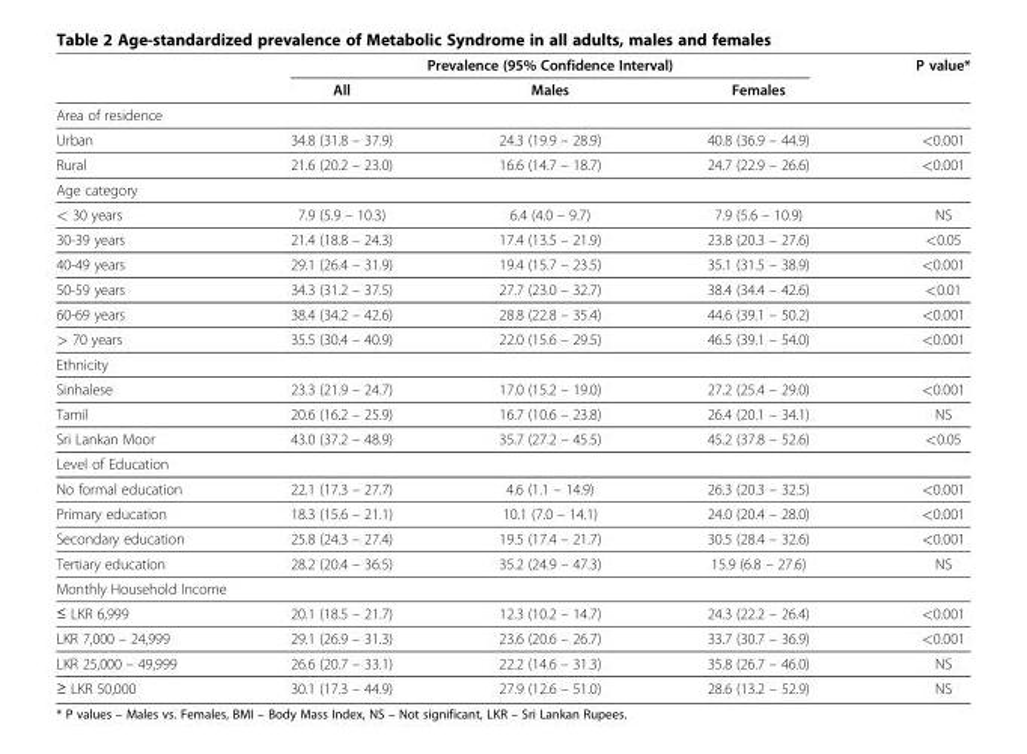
<table><thead><tr><td rowspan="2"></td><td colspan="3">Prevalence (95% Confidence Interval)</td><td rowspan="2">P value*</td></tr><tr><td>All</td><td>Males</td><td>Females</td></tr></thead><tbody><tr><td colspan="5">Area of residence</td></tr><tr><td>Urban</td><td>34.8 (31.8 – 37.9)</td><td>24.3 (19.9 – 28.9)</td><td>40.8 (36.9 – 44.9)</td><td>&lt;0.001</td></tr><tr><td>Rural</td><td>21.6 (20.2 – 23.0)</td><td>16.6 (14.7 – 18.7)</td><td>24.7 (22.9 – 26.6)</td><td>&lt;0.001</td></tr><tr><td colspan="5">Age category</td></tr><tr><td>&lt; 30 years</td><td>7.9 (5.9 – 10.3)</td><td>6.4 (4.0 – 9.7)</td><td>7.9 (5.6 – 10.9)</td><td>NS</td></tr><tr><td>30-39 years</td><td>21.4 (18.8 – 24.3)</td><td>17.4 (13.5 – 21.9)</td><td>23.8 (20.3 – 27.6)</td><td>&lt;0.05</td></tr><tr><td>40-49 years</td><td>29.1 (26.4 – 31.9)</td><td>19.4 (15.7 – 23.5)</td><td>35.1 (31.5 – 38.9)</td><td>&lt;0.001</td></tr><tr><td>50-59 years</td><td>34.3 (31.2 – 37.5)</td><td>27.7 (23.0 – 32.7)</td><td>38.4 (34.4 – 42.6)</td><td>&lt;0.01</td></tr><tr><td>60-69 years</td><td>38.4 (34.2 – 42.6)</td><td>28.8 (22.8 – 35.4)</td><td>44.6 (39.1 – 50.2)</td><td>&lt;0.001</td></tr><tr><td>&gt; 70 years</td><td>35.5 (30.4 – 40.9)</td><td>22.0 (15.6 – 29.5)</td><td>46.5 (39.1 – 54.0)</td><td>&lt;0.001</td></tr><tr><td colspan="5">Ethnicity</td></tr><tr><td>Sinhalese</td><td>23.3 (21.9 – 24.7)</td><td>17.0 (15.2 – 19.0)</td><td>27.2 (25.4 – 29.0)</td><td>&lt;0.001</td></tr><tr><td>Tamil</td><td>20.6 (16.2 – 25.9)</td><td>16.7 (10.6 – 23.8)</td><td>26.4 (20.1 – 34.1)</td><td>NS</td></tr><tr><td>Sri Lankan Moor</td><td>43.0 (37.2 – 48.9)</td><td>35.7 (27.2 – 45.5)</td><td>45.2 (37.8 – 52.6)</td><td>&lt;0.05</td></tr><tr><td colspan="5">Level of Education</td></tr><tr><td>No formal education</td><td>22.1 (17.3 – 27.7)</td><td>4.6 (1.1 – 14.9)</td><td>26.3 (20.3 – 32.5)</td><td>&lt;0.001</td></tr><tr><td>Primary education</td><td>18.3 (15.6 – 21.1)</td><td>10.1 (7.0 – 14.1)</td><td>24.0 (20.4 – 28.0)</td><td>&lt;0.001</td></tr><tr><td>Secondary education</td><td>25.8 (24.3 – 27.4)</td><td>19.5 (17.4 – 21.7)</td><td>30.5 (28.4 – 32.6)</td><td>&lt;0.001</td></tr><tr><td>Tertiary education</td><td>28.2 (20.4 – 36.5)</td><td>35.2 (24.9 – 47.3)</td><td>15.9 (6.8 – 27.6)</td><td>NS</td></tr><tr><td colspan="5">Monthly Household Income</td></tr><tr><td>≤ LKR 6,999</td><td>20.1 (18.5 – 21.7)</td><td>12.3 (10.2 – 14.7)</td><td>24.3 (22.2 – 26.4)</td><td>&lt;0.001</td></tr><tr><td>LKR 7,000 – 24,999</td><td>29.1 (26.9 – 31.3)</td><td>23.6 (20.6 – 26.7)</td><td>33.7 (30.7 – 36.9)</td><td>&lt;0.001</td></tr><tr><td>LKR 25,000 – 49,999</td><td>26.6 (20.7 – 33.1)</td><td>22.2 (14.6 – 31.3)</td><td>35.8 (26.7 – 46.0)</td><td>NS</td></tr><tr><td>≥ LKR 50,000</td><td>30.1 (17.3 – 44.9)</td><td>27.9 (12.6 – 51.0)</td><td>28.6 (13.2 – 52.9)</td><td>NS</td></tr></tbody></table>